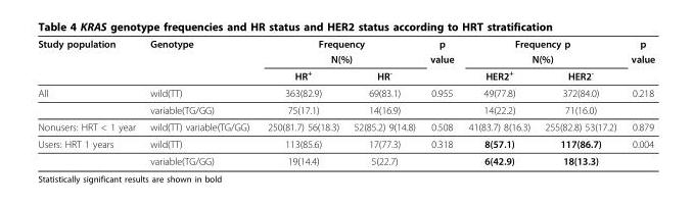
<table><thead><tr><td rowspan="3">Study population</td><td rowspan="3">Genotype</td><td rowspan="2" colspan="2">Frequency N(%)</td><td rowspan="3">p value</td><td rowspan="2" colspan="2">Frequency p N(%)</td><td rowspan="3">p value</td></tr><tr></tr><tr><td>HR<sup>+</sup></td><td>HR<sup>-</sup></td><td>HER2<sup>+</sup></td><td>HER2<sup>-</sup></td></tr></thead><tbody><tr><td rowspan="2">All</td><td>wild(TT)</td><td>363(82.9)</td><td>69(83.1)</td><td>0.955</td><td>49(77.8)</td><td>372(84.0)</td><td>0.218</td></tr><tr><td>variable(TG/GG)</td><td>75(17.1)</td><td>14(16.9)</td><td></td><td>14(22.2)</td><td>71(16.0)</td><td></td></tr><tr><td>Nonusers: HRT &lt; 1 year</td><td>wild(TT) variable(TG/GG)</td><td>250(81.7) 56(18.3)</td><td>52(85.2) 9(14.8)</td><td>0.508</td><td>41(83.7) 8(16.3)</td><td>255(82.8) 53(17.2)</td><td>0.879</td></tr><tr><td rowspan="2">Users: HRT 1 years</td><td>wild(TT)</td><td>113(85.6)</td><td>17(77.3)</td><td>0.318</td><td>8(57.1)</td><td>117(86.7)</td><td>0.004</td></tr><tr><td>variable(TG/GG)</td><td>19(14.4)</td><td>5(22.7)</td><td></td><td>6(42.9)</td><td>18(13.3)</td><td></td></tr></tbody></table>